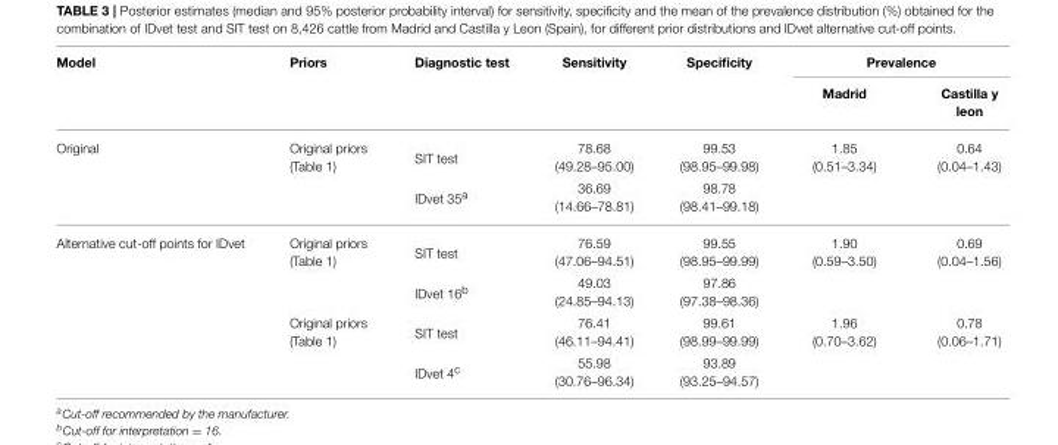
<table><thead><tr><td rowspan="2">Model</td><td rowspan="2">Priors</td><td rowspan="2">Diagnostic test</td><td rowspan="2">Sensitivity</td><td rowspan="2">Specificity</td><td colspan="2">Prevalence</td></tr><tr><td>Madrid</td><td>Castilla y leon</td></tr></thead><tbody><tr><td rowspan="2">Original</td><td>Original priors (Table 1)</td><td>SIT test</td><td>78.68 (49.28–95.00)</td><td>99.53 (98.95–99.98)</td><td>1.85 (0.51–3.34)</td><td>0.64 (0.04–1.43)</td></tr><tr><td></td><td>IDvet 35<sup>a</sup></td><td>36.69 (14.66–78.81)</td><td>98.78 (98.41–99.18)</td><td></td><td></td></tr><tr><td rowspan="4">Alternative cut-off points for IDvet</td><td>Original priors (Table 1)</td><td>SIT test</td><td>76.59 (47.06–94.51)</td><td>99.55 (98.95–99.99)</td><td>1.90 (0.59–3.50)</td><td>0.69 (0.04–1.56)</td></tr><tr><td></td><td>IDvet 16<sup>b</sup></td><td>49.03 (24.85–94.13)</td><td>97.86 (97.38–98.36)</td><td></td><td></td></tr><tr><td>Original priors (Table 1)</td><td>SIT test</td><td>76.41 (46.11–94.41)</td><td>99.61 (98.99–99.99)</td><td>1.96 (0.70–3.62)</td><td>0.78 (0.06–1.71)</td></tr><tr><td></td><td>IDvet 4<sup>c</sup></td><td>55.98 (30.76–96.34)</td><td>93.89 (93.25–94.57)</td><td></td><td></td></tr></tbody></table>